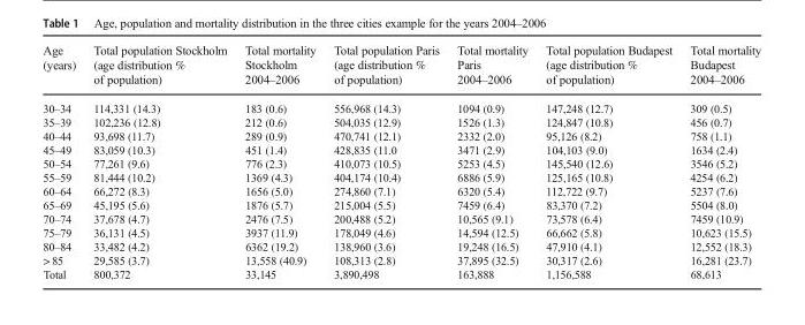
<table><thead><tr><td>Age (years)</td><td>Total population Stockholm (age distribution % of population)</td><td>Total mortality Stockholm 2004–2006</td><td>Total population Paris (age distribution % of population)</td><td>Total mortality Paris 2004–2006</td><td>Total population Budapest (age distribution % of population)</td><td>Total mortality Budapest 2004–2006</td></tr></thead><tbody><tr><td>30–34</td><td>114,331 (14.3)</td><td>183 (0.6)</td><td>556,968 (14.3)</td><td>1094 (0.9)</td><td>147,248 (12.7)</td><td>309 (0.5)</td></tr><tr><td>35–39</td><td>102,236 (12.8)</td><td>212 (0.6)</td><td>504,035 (12.9)</td><td>1526 (1.3)</td><td>124,847 (10.8)</td><td>456 (0.7)</td></tr><tr><td>40–44</td><td>93,698 (11.7)</td><td>289 (0.9)</td><td>470,741 (12.1)</td><td>2332 (2.0)</td><td>95,126 (8.2)</td><td>758 (1.1)</td></tr><tr><td>45–49</td><td>83,059 (10.3)</td><td>451 (1.4)</td><td>428,835 (11.0</td><td>3471 (2.9)</td><td>104,103 (9.0)</td><td>1634 (2.4)</td></tr><tr><td>50–54</td><td>77,261 (9.6)</td><td>776 (2.3)</td><td>410,073 (10.5)</td><td>5253 (4.5)</td><td>145,540 (12.6)</td><td>3546 (5.2)</td></tr><tr><td>55–59</td><td>81,444 (10.2)</td><td>1369 (4.3)</td><td>404,174 (10.4)</td><td>6886 (5.9)</td><td>125,165 (10.8)</td><td>4254 (6.2)</td></tr><tr><td>60–64</td><td>66,272 (8.3)</td><td>1656 (5.0)</td><td>274,860 (7.1)</td><td>6320 (5.4)</td><td>112,722 (9.7)</td><td>5237 (7.6)</td></tr><tr><td>65–69</td><td>45,195 (5.6)</td><td>1876 (5.7)</td><td>215,004 (5.5)</td><td>7459 (6.4)</td><td>83,370 (7.2)</td><td>5504 (8.0)</td></tr><tr><td>70–74</td><td>37,678 (4.7)</td><td>2476 (7.5)</td><td>200,488 (5.2)</td><td>10,565 (9.1)</td><td>73,578 (6.4)</td><td>7459 (10.9)</td></tr><tr><td>75–79</td><td>36,131 (4.5)</td><td>3937 (11.9)</td><td>178,049 (4.6)</td><td>14,594 (12.5)</td><td>66,662 (5.8)</td><td>10,623 (15.5)</td></tr><tr><td>80–84</td><td>33,482 (4.2)</td><td>6362 (19.2)</td><td>138,960 (3.6)</td><td>19,248 (16.5)</td><td>47,910 (4.1)</td><td>12,552 (18.3)</td></tr><tr><td>&gt; 85</td><td>29,585 (3.7)</td><td>13,558 (40.9)</td><td>108,313 (2.8)</td><td>37,895 (32.5)</td><td>30,317 (2.6)</td><td>16,281 (23.7)</td></tr><tr><td>Total</td><td>800,372</td><td>33,145</td><td>3,890,498</td><td>163,888</td><td>1,156,588</td><td>68,613</td></tr></tbody></table>